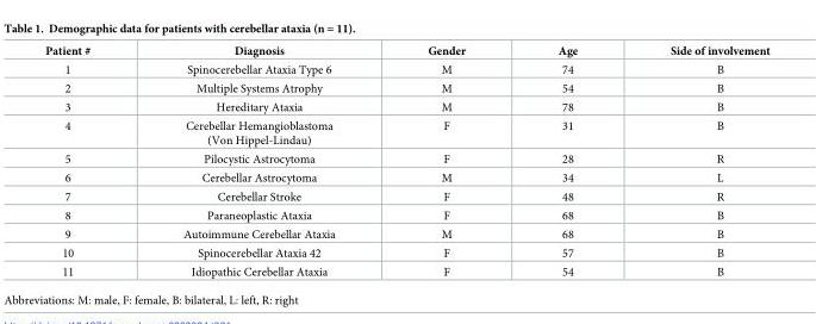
<table><thead><tr><td>Patient #</td><td>Diagnosis</td><td>Gender</td><td>Age</td><td>Side of involvement</td></tr></thead><tbody><tr><td>1</td><td>Spinocerebellar Ataxia Type 6</td><td>M</td><td>74</td><td>B</td></tr><tr><td>2</td><td>Multiple Systems Atrophy</td><td>M</td><td>54</td><td>B</td></tr><tr><td>3</td><td>Hereditary Ataxia</td><td>M</td><td>78</td><td>B</td></tr><tr><td>4</td><td>Cerebellar Hemangioblastoma (Von Hippel-Lindau)</td><td>F</td><td>31</td><td>B</td></tr><tr><td>5</td><td>Pilocystic Astrocytoma</td><td>F</td><td>28</td><td>R</td></tr><tr><td>6</td><td>Cerebellar Astrocytoma</td><td>M</td><td>34</td><td>L</td></tr><tr><td>7</td><td>Cerebellar Stroke</td><td>F</td><td>48</td><td>R</td></tr><tr><td>8</td><td>Paraneoplastic Ataxia</td><td>F</td><td>68</td><td>B</td></tr><tr><td>9</td><td>Autoimmune Cerebellar Ataxia</td><td>M</td><td>68</td><td>B</td></tr><tr><td>10</td><td>Spinocerebellar Ataxia 42</td><td>F</td><td>57</td><td>B</td></tr><tr><td>11</td><td>Idiopathic Cerebellar Ataxia</td><td>F</td><td>54</td><td>B</td></tr></tbody></table>